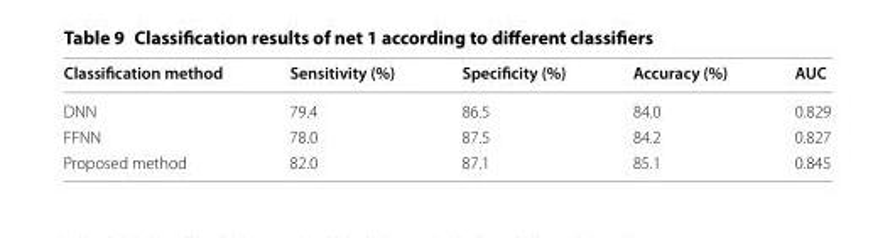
<table><thead><tr><td>Classification method</td><td>Sensitivity (%)</td><td>Specificity (%)</td><td>Accuracy (%)</td><td>AUC</td></tr></thead><tbody><tr><td>DNN</td><td>79.4</td><td>86.5</td><td>84.0</td><td>0.829</td></tr><tr><td>FFNN</td><td>78.0</td><td>87.5</td><td>84.2</td><td>0.827</td></tr><tr><td>Proposed method</td><td>82.0</td><td>87.1</td><td>85.1</td><td>0.845</td></tr></tbody></table>